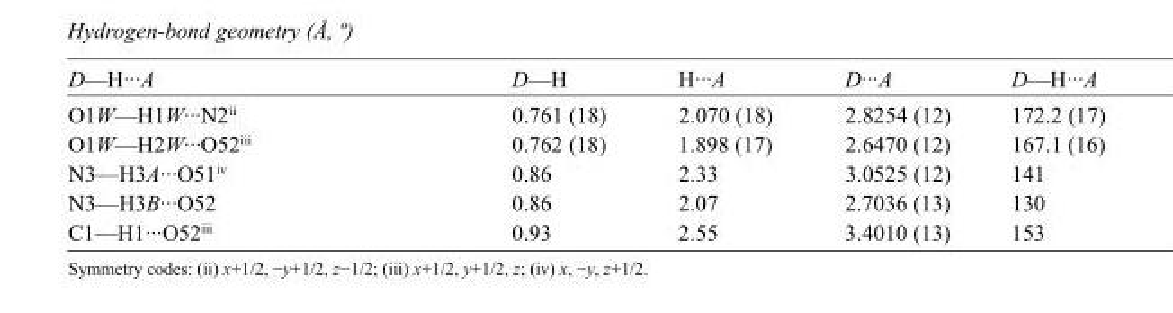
<table><tbody><tr><td>D—H···A</td><td>D—H</td><td>H···A</td><td>D···A</td><td>D—H···A</td></tr><tr><td>O1W—H1W···N2<sup>ii</sup></td><td>0.761 (18)</td><td>2.070 (18)</td><td>2.8254 (12)</td><td>172.2 (17)</td></tr><tr><td>O1W—H2W···O52<sup>iii</sup></td><td>0.762 (18)</td><td>1.898 (17)</td><td>2.6470 (12)</td><td>167.1 (16)</td></tr><tr><td>N3—H3A···O51<sup>iv</sup></td><td>0.86</td><td>2.33</td><td>3.0525 (12)</td><td>141</td></tr><tr><td>N3—H3B···O52</td><td>0.86</td><td>2.07</td><td>2.7036 (13)</td><td>130</td></tr><tr><td>C1—H1···O52<sup>iii</sup></td><td>0.93</td><td>2.55</td><td>3.4010 (13)</td><td>153</td></tr></tbody></table>